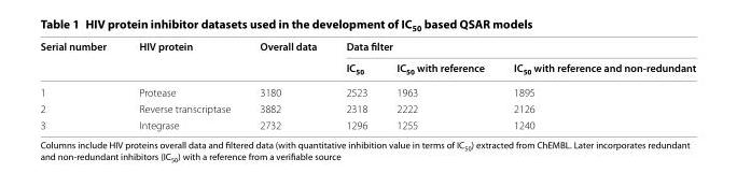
<table><thead><tr><td rowspan="2">Serial number</td><td rowspan="2">HIV protein</td><td rowspan="2">Overall data</td><td colspan="3">Data filter</td></tr><tr><td>IC<sub>50</sub></td><td>IC<sub>50</sub> with reference</td><td>IC<sub>50</sub> with reference and non-redundant</td></tr></thead><tbody><tr><td>1</td><td>Protease</td><td>3180</td><td>2523</td><td>1963</td><td>1895</td></tr><tr><td>2</td><td>Reverse transcriptase</td><td>3882</td><td>2318</td><td>2222</td><td>2126</td></tr><tr><td>3</td><td>Integrase</td><td>2732</td><td>1296</td><td>1255</td><td>1240</td></tr></tbody></table>